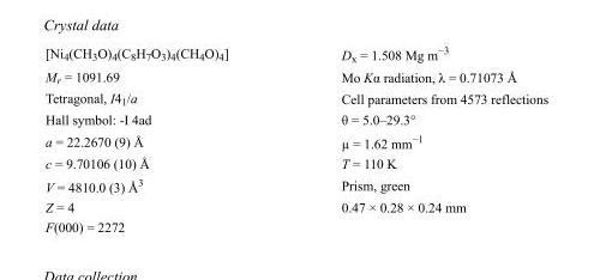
<table><tbody><tr><td>[Ni<sub>4</sub>(CH<sub>3</sub>O)<sub>4</sub>(C<sub>8</sub>H<sub>7</sub>O<sub>3</sub>)<sub>4</sub>(CH<sub>4</sub>O)<sub>4</sub>]</td><td>D<sub>x</sub> = 1.508 Mg m<sup>−3</sup></td></tr><tr><td>M<sub>r</sub> = 1091.69</td><td>Mo Kα radiation, λ = 0.71073 Å</td></tr><tr><td>Tetragonal, I4<sub>1</sub>/a</td><td>Cell parameters from 4573 reflections</td></tr><tr><td>Hall symbol: -I 4ad</td><td>θ = 5.0–29.3°</td></tr><tr><td>a = 22.2670 (9) Å</td><td>µ = 1.62 mm<sup>−1</sup></td></tr><tr><td>c = 9.70106 (10) Å</td><td>T = 110 K</td></tr><tr><td>V = 4810.0 (3) Å<sup>3</sup></td><td>Prism, green</td></tr><tr><td>Z = 4</td><td>0.47 × 0.28 × 0.24 mm</td></tr><tr><td>F(000) = 2272</td><td></td></tr></tbody></table>